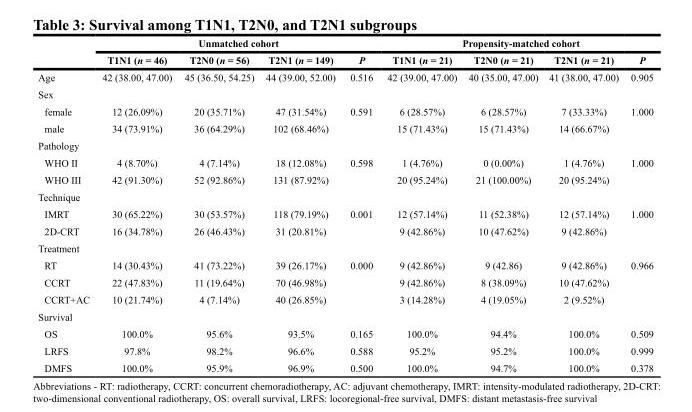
<table><thead><tr><td rowspan="2"></td><td colspan="4">Unmatched cohort</td><td colspan="4">Propensity-matched cohort</td></tr><tr><td>T1N1 (n = 46)</td><td>T2N0 (n = 56)</td><td>T2N1 (n = 149)</td><td>P</td><td>T1N1 (n = 21)</td><td>T2N0 (n = 21)</td><td>T2N1 (n = 21)</td><td>P</td></tr></thead><tbody><tr><td>Age</td><td>42 (38.00, 47.00)</td><td>45 (36.50, 54.25)</td><td>44 (39.00, 52.00)</td><td>0.516</td><td>42 (39.00, 47.00)</td><td>40 (35.00, 47.00)</td><td>41 (38.00, 47.00)</td><td>0.905</td></tr><tr><td colspan="9">Sex</td></tr><tr><td>female</td><td>12 (26.09%)</td><td>20 (35.71%)</td><td>47 (31.54%)</td><td>0.591</td><td>6 (28.57%)</td><td>6 (28.57%)</td><td>7 (33.33%)</td><td>1.000</td></tr><tr><td>male</td><td>34 (73.91%)</td><td>36 (64.29%)</td><td>102 (68.46%)</td><td></td><td>15 (71.43%)</td><td>15 (71.43%)</td><td>14 (66.67%)</td><td></td></tr><tr><td colspan="9">Pathology</td></tr><tr><td>WHO II</td><td>4 (8.70%)</td><td>4 (7.14%)</td><td>18 (12.08%)</td><td>0.598</td><td>1 (4.76%)</td><td>0 (0.00%)</td><td>1 (4.76%)</td><td>1.000</td></tr><tr><td>WHO III</td><td>42 (91.30%)</td><td>52 (92.86%)</td><td>131 (87.92%)</td><td></td><td>20 (95.24%)</td><td>21 (100.00%)</td><td>20 (95.24%)</td><td></td></tr><tr><td colspan="9">Technique</td></tr><tr><td>IMRT</td><td>30 (65.22%)</td><td>30 (53.57%)</td><td>118 (79.19%)</td><td>0.001</td><td>12 (57.14%)</td><td>11 (52.38%)</td><td>12 (57.14%)</td><td>1.000</td></tr><tr><td>2D-CRT</td><td>16 (34.78%)</td><td>26 (46.43%)</td><td>31 (20.81%)</td><td></td><td>9 (42.86%)</td><td>10 (47.62%)</td><td>9 (42.86%)</td><td></td></tr><tr><td colspan="9">Treatment</td></tr><tr><td>RT</td><td>14 (30.43%)</td><td>41 (73.22%)</td><td>39 (26.17%)</td><td>0.000</td><td>9 (42.86%)</td><td>9 (42.86)</td><td>9 (42.86%)</td><td>0.966</td></tr><tr><td>CCRT</td><td>22 (47.83%)</td><td>11 (19.64%)</td><td>70 (46.98%)</td><td></td><td>9 (42.86%)</td><td>8 (38.09%)</td><td>10 (47.62%)</td><td></td></tr><tr><td>CCRT+AC</td><td>10 (21.74%)</td><td>4 (7.14%)</td><td>40 (26.85%)</td><td></td><td>3 (14.28%)</td><td>4 (19.05%)</td><td>2 (9.52%)</td><td></td></tr><tr><td colspan="9">Survival</td></tr><tr><td>OS</td><td>100.0%</td><td>95.6%</td><td>93.5%</td><td>0.165</td><td>100.0%</td><td>94.4%</td><td>100.0%</td><td>0.509</td></tr><tr><td>LRFS</td><td>97.8%</td><td>98.2%</td><td>96.6%</td><td>0.588</td><td>95.2%</td><td>95.2%</td><td>100.0%</td><td>0.999</td></tr><tr><td>DMFS</td><td>100.0%</td><td>95.9%</td><td>96.9%</td><td>0.500</td><td>100.0%</td><td>94.7%</td><td>100.0%</td><td>0.378</td></tr></tbody></table>